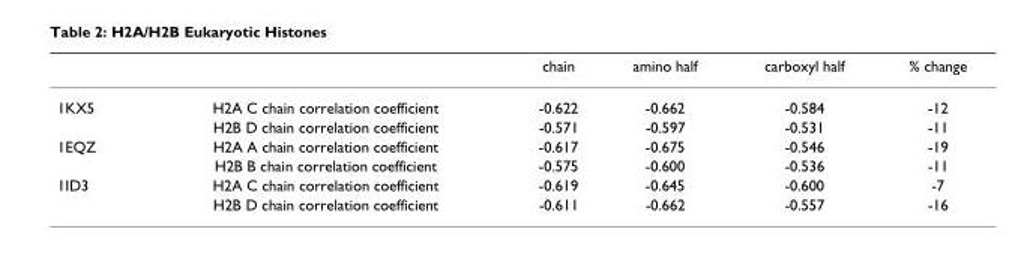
<table><thead><tr><td></td><td></td><td>chain</td><td>amino half</td><td>carboxyl half</td><td>% change</td></tr></thead><tbody><tr><td rowspan="2">1KX5</td><td>H2A C chain correlation coefficient</td><td>-0.622</td><td>-0.662</td><td>-0.584</td><td>-12</td></tr><tr><td>H2B D chain correlation coefficient</td><td>-0.571</td><td>-0.597</td><td>-0.531</td><td>-11</td></tr><tr><td rowspan="2">1EQZ</td><td>H2A A chain correlation coefficient</td><td>-0.617</td><td>-0.675</td><td>-0.546</td><td>-19</td></tr><tr><td>H2B B chain correlation coefficient</td><td>-0.575</td><td>-0.600</td><td>-0.536</td><td>-11</td></tr><tr><td rowspan="2">1ID3</td><td>H2A C chain correlation coefficient</td><td>-0.619</td><td>-0.645</td><td>-0.600</td><td>-7</td></tr><tr><td>H2B D chain correlation coefficient</td><td>-0.611</td><td>-0.662</td><td>-0.557</td><td>-16</td></tr></tbody></table>